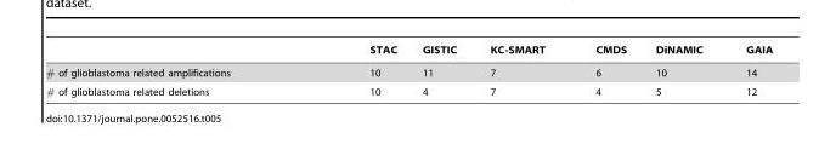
<table><thead><tr><td></td><td>STAC</td><td>GISTIC</td><td>KC-SMART</td><td>CMDS</td><td>DiNAMIC</td><td>GAIA</td></tr></thead><tbody><tr><td># of glioblastoma related amplifications</td><td>10</td><td>11</td><td>7</td><td>6</td><td>10</td><td>14</td></tr><tr><td># of glioblastoma related deletions</td><td>10</td><td>4</td><td>7</td><td>4</td><td>5</td><td>12</td></tr></tbody></table>